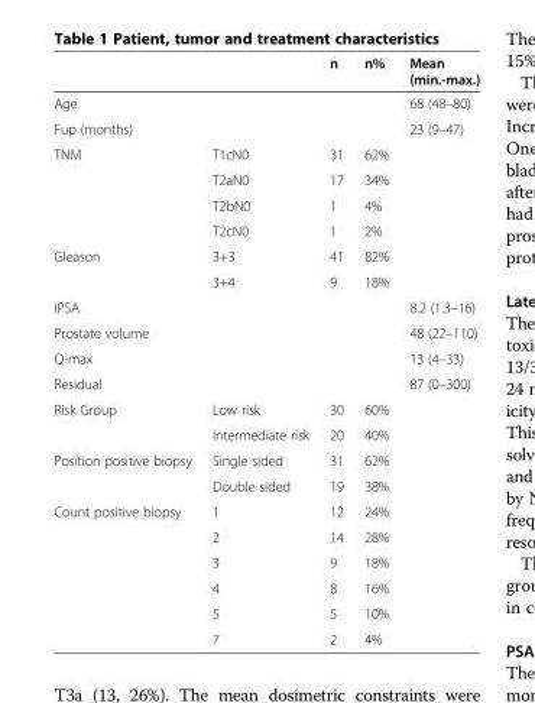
<table><thead><tr><td></td><td></td><td>n</td><td>n%</td><td>Mean (min.-max.)</td></tr></thead><tbody><tr><td colspan="2">Age</td><td></td><td></td><td>68 (48–80)</td></tr><tr><td colspan="2">Fup (months)</td><td></td><td></td><td>23 (9–47)</td></tr><tr><td rowspan="4">TNM</td><td>T1cN0</td><td>31</td><td>62%</td><td></td></tr><tr><td>T2aN0</td><td>17</td><td>34%</td><td></td></tr><tr><td>T2bN0</td><td>1</td><td>4%</td><td></td></tr><tr><td>T2cN0</td><td>1</td><td>2%</td><td></td></tr><tr><td rowspan="2">Gleason</td><td>3+3</td><td>41</td><td>82%</td><td></td></tr><tr><td>3+4</td><td>9</td><td>18%</td><td></td></tr><tr><td>IPSA</td><td></td><td></td><td></td><td>8.2 (1.3–16)</td></tr><tr><td>Prostate volume</td><td></td><td></td><td></td><td>48 (22–110)</td></tr><tr><td>Q-max</td><td></td><td></td><td></td><td>13 (4–33)</td></tr><tr><td>Residual</td><td></td><td></td><td></td><td>87 (0–300)</td></tr><tr><td rowspan="2">Risk Group</td><td>Low risk</td><td>30</td><td>60%</td><td></td></tr><tr><td>Intermediate risk</td><td>20</td><td>40%</td><td></td></tr><tr><td rowspan="2">Position positive biopsy</td><td>Single sided</td><td>31</td><td>62%</td><td></td></tr><tr><td>Double sided</td><td>19</td><td>38%</td><td></td></tr><tr><td rowspan="6">Count positive biopsy</td><td>1</td><td>12</td><td>24%</td><td></td></tr><tr><td>2</td><td>14</td><td>28%</td><td></td></tr><tr><td>3</td><td>9</td><td>18%</td><td></td></tr><tr><td>4</td><td>8</td><td>16%</td><td></td></tr><tr><td>5</td><td>5</td><td>10%</td><td></td></tr><tr><td>7</td><td>2</td><td>4%</td><td></td></tr></tbody></table>